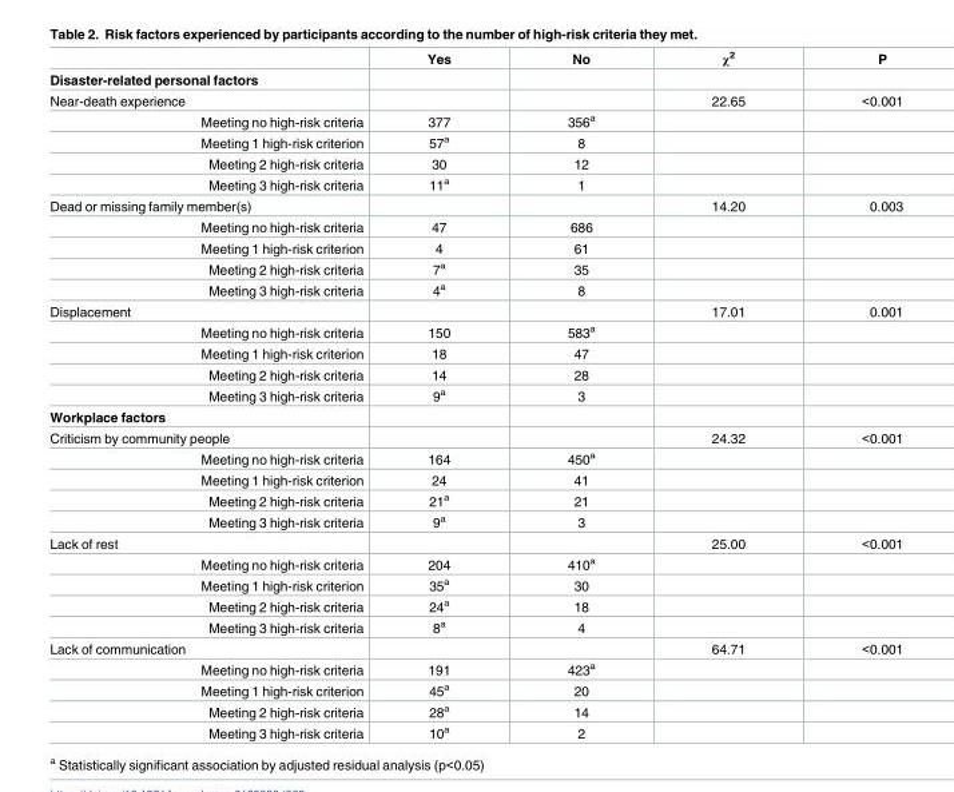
<table><thead><tr><td></td><td>Yes</td><td>No</td><td>χ<sup>2</sup></td><td>P</td></tr></thead><tbody><tr><td colspan="5">Disaster-related personal factors</td></tr><tr><td>Near-death experience</td><td></td><td></td><td>22.65</td><td>&lt;0.001</td></tr><tr><td>Meeting no high-risk criteria</td><td>377</td><td>356<sup>a</sup></td><td></td><td></td></tr><tr><td>Meeting 1 high-risk criterion</td><td>57<sup>a</sup></td><td>8</td><td></td><td></td></tr><tr><td>Meeting 2 high-risk criteria</td><td>30</td><td>12</td><td></td><td></td></tr><tr><td>Meeting 3 high-risk criteria</td><td>11<sup>a</sup></td><td>1</td><td></td><td></td></tr><tr><td>Dead or missing family member(s)</td><td></td><td></td><td>14.20</td><td>0.003</td></tr><tr><td>Meeting no high-risk criteria</td><td>47</td><td>686</td><td></td><td></td></tr><tr><td>Meeting 1 high-risk criterion</td><td>4</td><td>61</td><td></td><td></td></tr><tr><td>Meeting 2 high-risk criteria</td><td>7<sup>a</sup></td><td>35</td><td></td><td></td></tr><tr><td>Meeting 3 high-risk criteria</td><td>4<sup>a</sup></td><td>8</td><td></td><td></td></tr><tr><td>Displacement</td><td></td><td></td><td>17.01</td><td>0.001</td></tr><tr><td>Meeting no high-risk criteria</td><td>150</td><td>583<sup>a</sup></td><td></td><td></td></tr><tr><td>Meeting 1 high-risk criterion</td><td>18</td><td>47</td><td></td><td></td></tr><tr><td>Meeting 2 high-risk criteria</td><td>14</td><td>28</td><td></td><td></td></tr><tr><td>Meeting 3 high-risk criteria</td><td>9<sup>a</sup></td><td>3</td><td></td><td></td></tr><tr><td colspan="5">Workplace factors</td></tr><tr><td>Criticism by community people</td><td></td><td></td><td>24.32</td><td>&lt;0.001</td></tr><tr><td>Meeting no high-risk criteria</td><td>164</td><td>450<sup>a</sup></td><td></td><td></td></tr><tr><td>Meeting 1 high-risk criterion</td><td>24</td><td>41</td><td></td><td></td></tr><tr><td>Meeting 2 high-risk criteria</td><td>21<sup>a</sup></td><td>21</td><td></td><td></td></tr><tr><td>Meeting 3 high-risk criteria</td><td>9<sup>a</sup></td><td>3</td><td></td><td></td></tr><tr><td>Lack of rest</td><td></td><td></td><td>25.00</td><td>&lt;0.001</td></tr><tr><td>Meeting no high-risk criteria</td><td>204</td><td>410<sup>a</sup></td><td></td><td></td></tr><tr><td>Meeting 1 high-risk criterion</td><td>35<sup>a</sup></td><td>30</td><td></td><td></td></tr><tr><td>Meeting 2 high-risk criteria</td><td>24<sup>a</sup></td><td>18</td><td></td><td></td></tr><tr><td>Meeting 3 high-risk criteria</td><td>8<sup>a</sup></td><td>4</td><td></td><td></td></tr><tr><td>Lack of communication</td><td></td><td></td><td>64.71</td><td>&lt;0.001</td></tr><tr><td>Meeting no high-risk criteria</td><td>191</td><td>423<sup>a</sup></td><td></td><td></td></tr><tr><td>Meeting 1 high-risk criterion</td><td>45<sup>a</sup></td><td>20</td><td></td><td></td></tr><tr><td>Meeting 2 high-risk criteria</td><td>28<sup>a</sup></td><td>14</td><td></td><td></td></tr><tr><td>Meeting 3 high-risk criteria</td><td>10<sup>a</sup></td><td>2</td><td></td><td></td></tr></tbody></table>